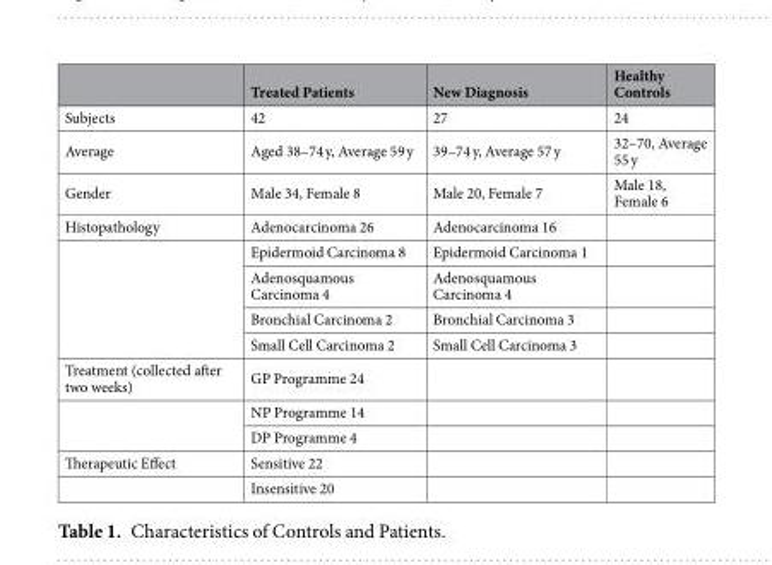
<table><thead><tr><td></td><td>Treated Patients</td><td>New Diagnosis</td><td>Healthy Controls</td></tr></thead><tbody><tr><td>Subjects</td><td>42</td><td>27</td><td>24</td></tr><tr><td>Average</td><td>Aged 38–74 y, Average 59 y</td><td>39–74 y, Average 57 y</td><td>32–70, Average 55 y</td></tr><tr><td>Gender</td><td>Male 34, Female 8</td><td>Male 20, Female 7</td><td>Male 18, Female 6</td></tr><tr><td rowspan="5">Histopathology</td><td>Adenocarcinoma 26</td><td>Adenocarcinoma 16</td><td></td></tr><tr><td>Epidermoid Carcinoma 8</td><td>Epidermoid Carcinoma 1</td><td></td></tr><tr><td>Adenosquamous Carcinoma 4</td><td>Adenosquamous Carcinoma 4</td><td></td></tr><tr><td>Bronchial Carcinoma 2</td><td>Bronchial Carcinoma 3</td><td></td></tr><tr><td>Small Cell Carcinoma 2</td><td>Small Cell Carcinoma 3</td><td></td></tr><tr><td rowspan="3">Treatment (collected after two weeks)</td><td>GP Programme 24</td><td></td><td></td></tr><tr><td>NP Programme 14</td><td></td><td></td></tr><tr><td>DP Programme 4</td><td></td><td></td></tr><tr><td rowspan="2">Therapeutic Effect</td><td>Sensitive 22</td><td></td><td></td></tr><tr><td>Insensitive 20</td><td></td><td></td></tr></tbody></table>